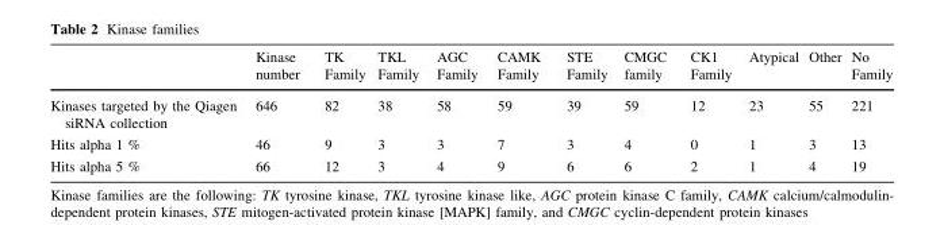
<table><thead><tr><td></td><td>Kinase number</td><td>TK Family</td><td>TKL Family</td><td>AGC Family</td><td>CAMK Family</td><td>STE Family</td><td>CMGC family</td><td>CK1 Family</td><td>Atypical</td><td>Other</td><td>No Family</td></tr></thead><tbody><tr><td>Kinases targeted by the Qiagen siRNA collection</td><td>646</td><td>82</td><td>38</td><td>58</td><td>59</td><td>39</td><td>59</td><td>12</td><td>23</td><td>55</td><td>221</td></tr><tr><td>Hits alpha 1 %</td><td>46</td><td>9</td><td>3</td><td>3</td><td>7</td><td>3</td><td>4</td><td>0</td><td>1</td><td>3</td><td>13</td></tr><tr><td>Hits alpha 5 %</td><td>66</td><td>12</td><td>3</td><td>4</td><td>9</td><td>6</td><td>6</td><td>2</td><td>1</td><td>4</td><td>19</td></tr></tbody></table>